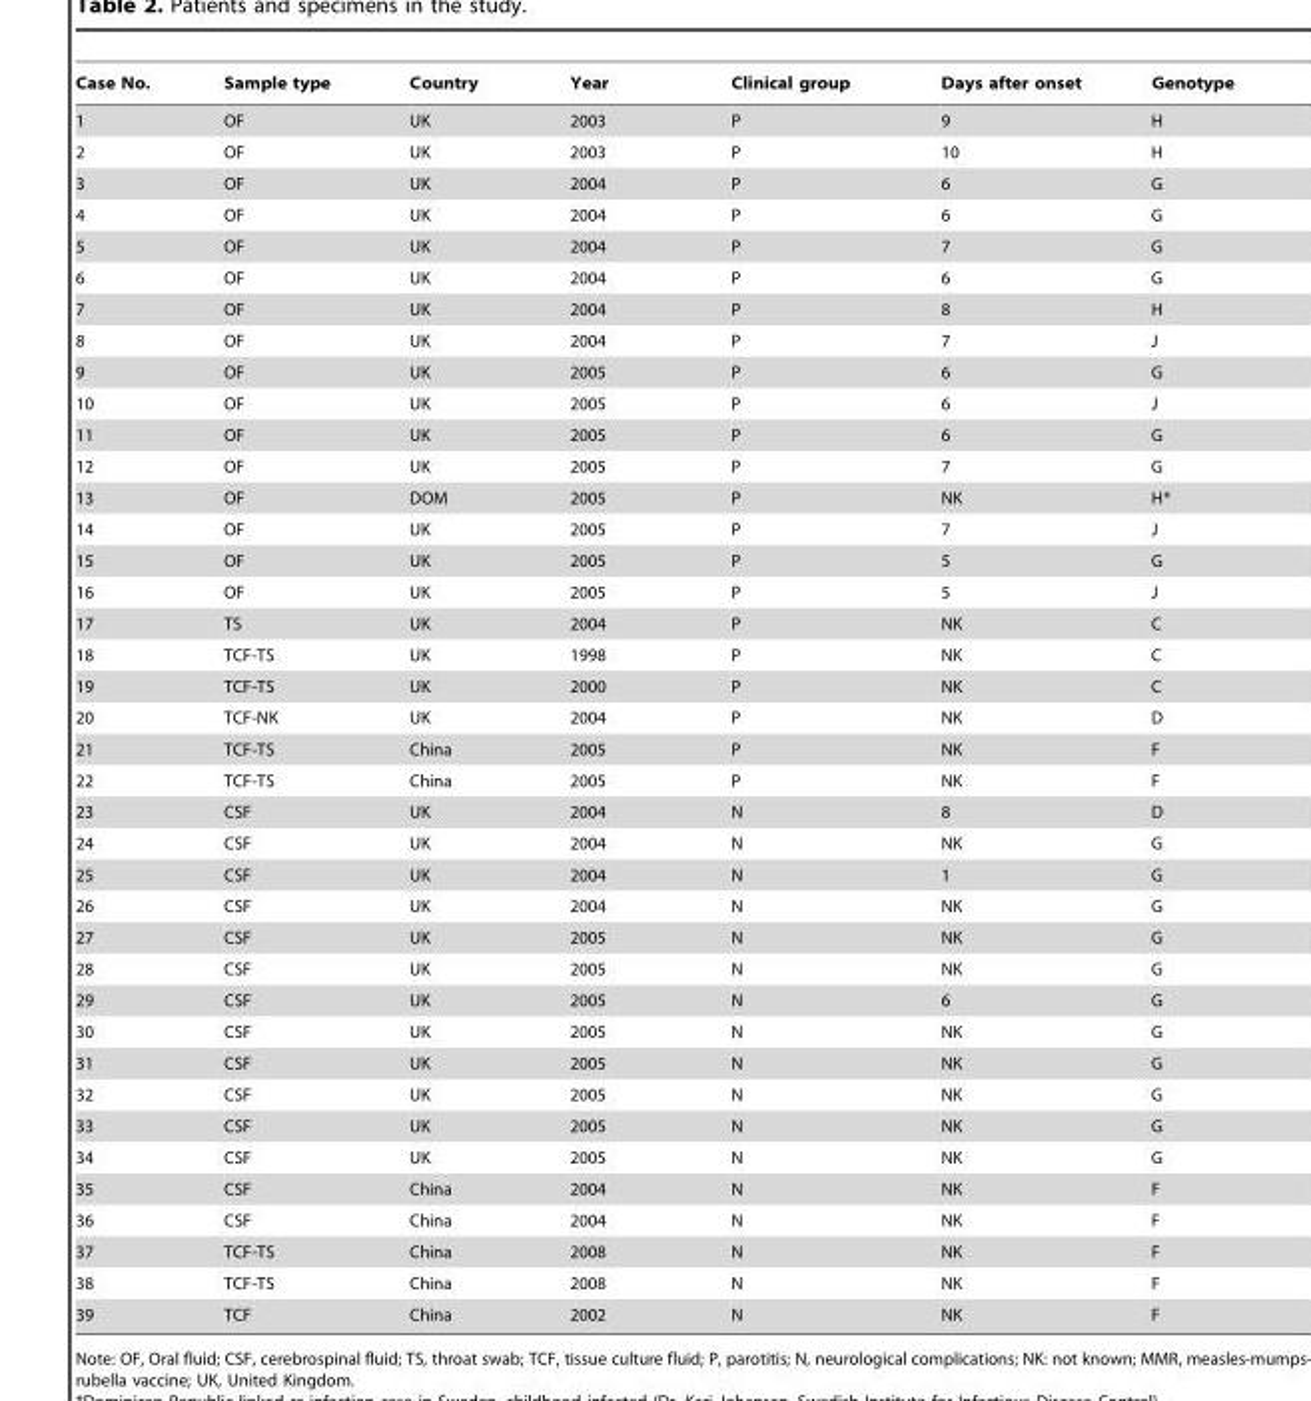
<table><thead><tr><td>Case No.</td><td>Sample type</td><td>Country</td><td>Year</td><td>Clinical group</td><td>Days after onset</td><td>Genotype</td></tr></thead><tbody><tr><td>1</td><td>OF</td><td>UK</td><td>2003</td><td>P</td><td>9</td><td>H</td></tr><tr><td>2</td><td>OF</td><td>UK</td><td>2003</td><td>P</td><td>10</td><td>H</td></tr><tr><td>3</td><td>OF</td><td>UK</td><td>2004</td><td>P</td><td>6</td><td>G</td></tr><tr><td>4</td><td>OF</td><td>UK</td><td>2004</td><td>P</td><td>6</td><td>G</td></tr><tr><td>5</td><td>OF</td><td>UK</td><td>2004</td><td>P</td><td>7</td><td>G</td></tr><tr><td>6</td><td>OF</td><td>UK</td><td>2004</td><td>P</td><td>6</td><td>G</td></tr><tr><td>7</td><td>OF</td><td>UK</td><td>2004</td><td>P</td><td>8</td><td>H</td></tr><tr><td>8</td><td>OF</td><td>UK</td><td>2004</td><td>P</td><td>7</td><td>J</td></tr><tr><td>9</td><td>OF</td><td>UK</td><td>2005</td><td>P</td><td>6</td><td>G</td></tr><tr><td>10</td><td>OF</td><td>UK</td><td>2005</td><td>P</td><td>6</td><td>J</td></tr><tr><td>11</td><td>OF</td><td>UK</td><td>2005</td><td>P</td><td>6</td><td>G</td></tr><tr><td>12</td><td>OF</td><td>UK</td><td>2005</td><td>P</td><td>7</td><td>G</td></tr><tr><td>13</td><td>OF</td><td>DOM</td><td>2005</td><td>P</td><td>NK</td><td>H*</td></tr><tr><td>14</td><td>OF</td><td>UK</td><td>2005</td><td>P</td><td>7</td><td>J</td></tr><tr><td>15</td><td>OF</td><td>UK</td><td>2005</td><td>P</td><td>5</td><td>G</td></tr><tr><td>16</td><td>OF</td><td>UK</td><td>2005</td><td>P</td><td>5</td><td>J</td></tr><tr><td>17</td><td>TS</td><td>UK</td><td>2004</td><td>P</td><td>NK</td><td>C</td></tr><tr><td>18</td><td>TCF-TS</td><td>UK</td><td>1998</td><td>P</td><td>NK</td><td>C</td></tr><tr><td>19</td><td>TCF-TS</td><td>UK</td><td>2000</td><td>P</td><td>NK</td><td>C</td></tr><tr><td>20</td><td>TCF-NK</td><td>UK</td><td>2004</td><td>P</td><td>NK</td><td>D</td></tr><tr><td>21</td><td>TCF-TS</td><td>China</td><td>2005</td><td>P</td><td>NK</td><td>F</td></tr><tr><td>22</td><td>TCF-TS</td><td>China</td><td>2005</td><td>P</td><td>NK</td><td>F</td></tr><tr><td>23</td><td>CSF</td><td>UK</td><td>2004</td><td>N</td><td>8</td><td>D</td></tr><tr><td>24</td><td>CSF</td><td>UK</td><td>2004</td><td>N</td><td>NK</td><td>G</td></tr><tr><td>25</td><td>CSF</td><td>UK</td><td>2004</td><td>N</td><td>1</td><td>G</td></tr><tr><td>26</td><td>CSF</td><td>UK</td><td>2004</td><td>N</td><td>NK</td><td>G</td></tr><tr><td>27</td><td>CSF</td><td>UK</td><td>2005</td><td>N</td><td>NK</td><td>G</td></tr><tr><td>28</td><td>CSF</td><td>UK</td><td>2005</td><td>N</td><td>NK</td><td>G</td></tr><tr><td>29</td><td>CSF</td><td>UK</td><td>2005</td><td>N</td><td>6</td><td>G</td></tr><tr><td>30</td><td>CSF</td><td>UK</td><td>2005</td><td>N</td><td>NK</td><td>G</td></tr><tr><td>31</td><td>CSF</td><td>UK</td><td>2005</td><td>N</td><td>NK</td><td>G</td></tr><tr><td>32</td><td>CSF</td><td>UK</td><td>2005</td><td>N</td><td>NK</td><td>G</td></tr><tr><td>33</td><td>CSF</td><td>UK</td><td>2005</td><td>N</td><td>NK</td><td>G</td></tr><tr><td>34</td><td>CSF</td><td>UK</td><td>2005</td><td>N</td><td>NK</td><td>G</td></tr><tr><td>35</td><td>CSF</td><td>China</td><td>2004</td><td>N</td><td>NK</td><td>F</td></tr><tr><td>36</td><td>CSF</td><td>China</td><td>2004</td><td>N</td><td>NK</td><td>F</td></tr><tr><td>37</td><td>TCF-TS</td><td>China</td><td>2008</td><td>N</td><td>NK</td><td>F</td></tr><tr><td>38</td><td>TCF-TS</td><td>China</td><td>2008</td><td>N</td><td>NK</td><td>F</td></tr><tr><td>39</td><td>TCF</td><td>China</td><td>2002</td><td>N</td><td>NK</td><td>F</td></tr></tbody></table>